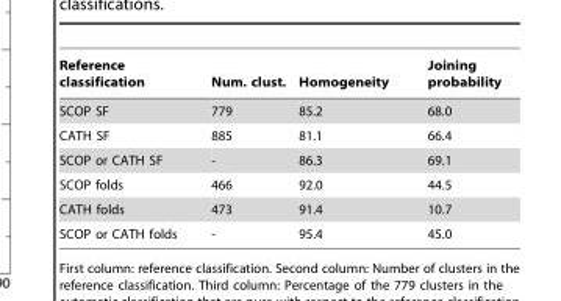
<table><thead><tr><td>Reference classification</td><td>Num. clust.</td><td>Homogeneity</td><td>Joining probability</td></tr></thead><tbody><tr><td>SCOP SF</td><td>779</td><td>85.2</td><td>68.0</td></tr><tr><td>CATH SF</td><td>885</td><td>81.1</td><td>66.4</td></tr><tr><td>SCOP or CATH SF</td><td>-</td><td>86.3</td><td>69.1</td></tr><tr><td>SCOP folds</td><td>466</td><td>92.0</td><td>44.5</td></tr><tr><td>CATH folds</td><td>473</td><td>91.4</td><td>10.7</td></tr><tr><td>SCOP or CATH folds</td><td>-</td><td>95.4</td><td>45.0</td></tr></tbody></table>